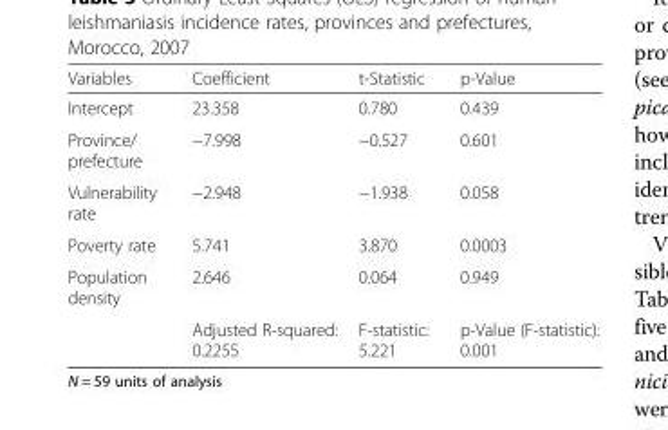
<table><thead><tr><td>Variables</td><td>Coefficient</td><td>t-Statistic</td><td>p-Value</td></tr></thead><tbody><tr><td>Intercept</td><td>23.358</td><td>0.780</td><td>0.439</td></tr><tr><td>Province/ prefecture</td><td>−7.998</td><td>−0.527</td><td>0.601</td></tr><tr><td>Vulnerability rate</td><td>−2.948</td><td>−1.938</td><td>0.058</td></tr><tr><td>Poverty rate</td><td>5.741</td><td>3.870</td><td>0.0003</td></tr><tr><td rowspan="2">Population density</td><td>2.646</td><td>0.064</td><td>0.949</td></tr><tr><td>Adjusted R-squared: 0.2255</td><td>F-statistic: 5.221</td><td>p-Value (F-statistic): 0.001</td></tr></tbody></table>